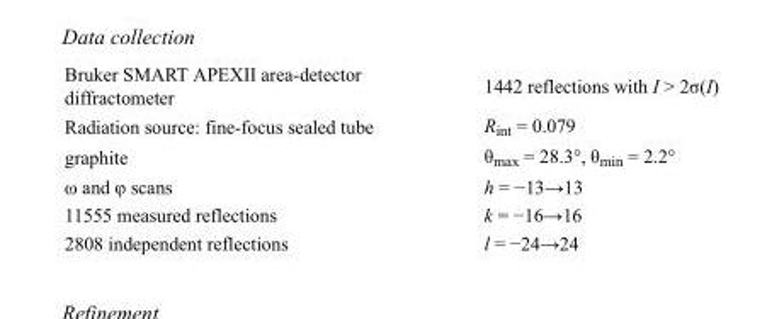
<table><tbody><tr><td>Bruker SMART APEXII area-detector diffractometer</td><td>1442 reflections with I &gt; 2σ(I)</td></tr><tr><td>Radiation source: fine-focus sealed tube</td><td>R<sub>int</sub> = 0.079</td></tr><tr><td>graphite</td><td>θ<sub>max</sub> = 28.3°, θ<sub>min</sub> = 2.2°</td></tr><tr><td>ω and φ scans</td><td>h = −13→13</td></tr><tr><td>11555 measured reflections</td><td>k = −16→16</td></tr><tr><td>2808 independent reflections</td><td>l = −24→24</td></tr></tbody></table>